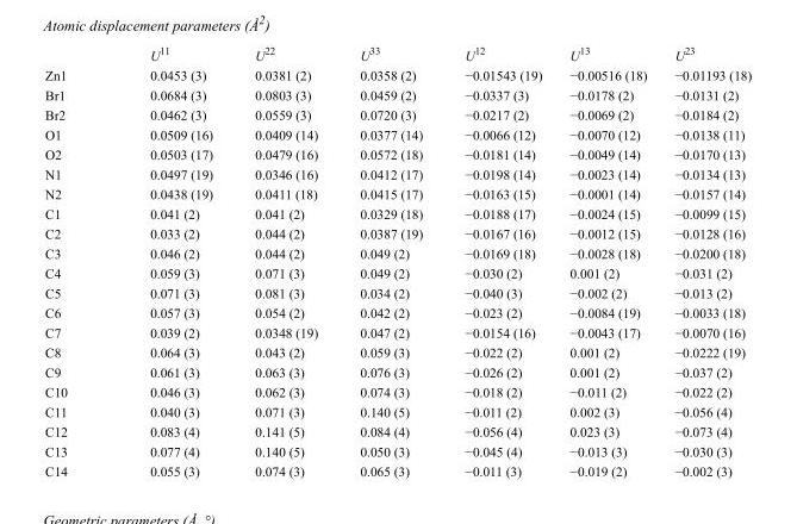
<table><thead><tr><td></td><td>U<sup>11</sup></td><td>U<sup>22</sup></td><td>U<sup>33</sup></td><td>U<sup>12</sup></td><td>U<sup>13</sup></td><td>U<sup>23</sup></td></tr></thead><tbody><tr><td>Zn1</td><td>0.0453 (3)</td><td>0.0381 (2)</td><td>0.0358 (2)</td><td>−0.01543 (19)</td><td>−0.00516 (18)</td><td>−0.01193 (18)</td></tr><tr><td>Br1</td><td>0.0684 (3)</td><td>0.0803 (3)</td><td>0.0459 (2)</td><td>−0.0337 (3)</td><td>−0.0178 (2)</td><td>−0.0131 (2)</td></tr><tr><td>Br2</td><td>0.0462 (3)</td><td>0.0559 (3)</td><td>0.0720 (3)</td><td>−0.0217 (2)</td><td>−0.0069 (2)</td><td>−0.0184 (2)</td></tr><tr><td>O1</td><td>0.0509 (16)</td><td>0.0409 (14)</td><td>0.0377 (14)</td><td>−0.0066 (12)</td><td>−0.0070 (12)</td><td>−0.0138 (11)</td></tr><tr><td>O2</td><td>0.0503 (17)</td><td>0.0479 (16)</td><td>0.0572 (18)</td><td>−0.0181 (14)</td><td>−0.0049 (14)</td><td>−0.0170 (13)</td></tr><tr><td>N1</td><td>0.0497 (19)</td><td>0.0346 (16)</td><td>0.0412 (17)</td><td>−0.0198 (14)</td><td>−0.0023 (14)</td><td>−0.0134 (13)</td></tr><tr><td>N2</td><td>0.0438 (19)</td><td>0.0411 (18)</td><td>0.0415 (17)</td><td>−0.0163 (15)</td><td>−0.0001 (14)</td><td>−0.0157 (14)</td></tr><tr><td>C1</td><td>0.041 (2)</td><td>0.041 (2)</td><td>0.0329 (18)</td><td>−0.0188 (17)</td><td>−0.0024 (15)</td><td>−0.0099 (15)</td></tr><tr><td>C2</td><td>0.033 (2)</td><td>0.044 (2)</td><td>0.0387 (19)</td><td>−0.0167 (16)</td><td>−0.0012 (15)</td><td>−0.0128 (16)</td></tr><tr><td>C3</td><td>0.046 (2)</td><td>0.044 (2)</td><td>0.049 (2)</td><td>−0.0169 (18)</td><td>−0.0028 (18)</td><td>−0.0200 (18)</td></tr><tr><td>C4</td><td>0.059 (3)</td><td>0.071 (3)</td><td>0.049 (2)</td><td>−0.030 (2)</td><td>0.001 (2)</td><td>−0.031 (2)</td></tr><tr><td>C5</td><td>0.071 (3)</td><td>0.081 (3)</td><td>0.034 (2)</td><td>−0.040 (3)</td><td>−0.002 (2)</td><td>−0.013 (2)</td></tr><tr><td>C6</td><td>0.057 (3)</td><td>0.054 (2)</td><td>0.042 (2)</td><td>−0.023 (2)</td><td>−0.0084 (19)</td><td>−0.0033 (18)</td></tr><tr><td>C7</td><td>0.039 (2)</td><td>0.0348 (19)</td><td>0.047 (2)</td><td>−0.0154 (16)</td><td>−0.0043 (17)</td><td>−0.0070 (16)</td></tr><tr><td>C8</td><td>0.064 (3)</td><td>0.043 (2)</td><td>0.059 (3)</td><td>−0.022 (2)</td><td>0.001 (2)</td><td>−0.0222 (19)</td></tr><tr><td>C9</td><td>0.061 (3)</td><td>0.063 (3)</td><td>0.076 (3)</td><td>−0.026 (2)</td><td>0.001 (2)</td><td>−0.037 (2)</td></tr><tr><td>C10</td><td>0.046 (3)</td><td>0.062 (3)</td><td>0.074 (3)</td><td>−0.018 (2)</td><td>−0.011 (2)</td><td>−0.022 (2)</td></tr><tr><td>C11</td><td>0.040 (3)</td><td>0.071 (3)</td><td>0.140 (5)</td><td>−0.011 (2)</td><td>0.002 (3)</td><td>−0.056 (4)</td></tr><tr><td>C12</td><td>0.083 (4)</td><td>0.141 (5)</td><td>0.084 (4)</td><td>−0.056 (4)</td><td>0.023 (3)</td><td>−0.073 (4)</td></tr><tr><td>C13</td><td>0.077 (4)</td><td>0.140 (5)</td><td>0.050 (3)</td><td>−0.045 (4)</td><td>−0.013 (3)</td><td>−0.030 (3)</td></tr><tr><td>C14</td><td>0.055 (3)</td><td>0.074 (3)</td><td>0.065 (3)</td><td>−0.011 (3)</td><td>−0.019 (2)</td><td>−0.002 (3)</td></tr></tbody></table>